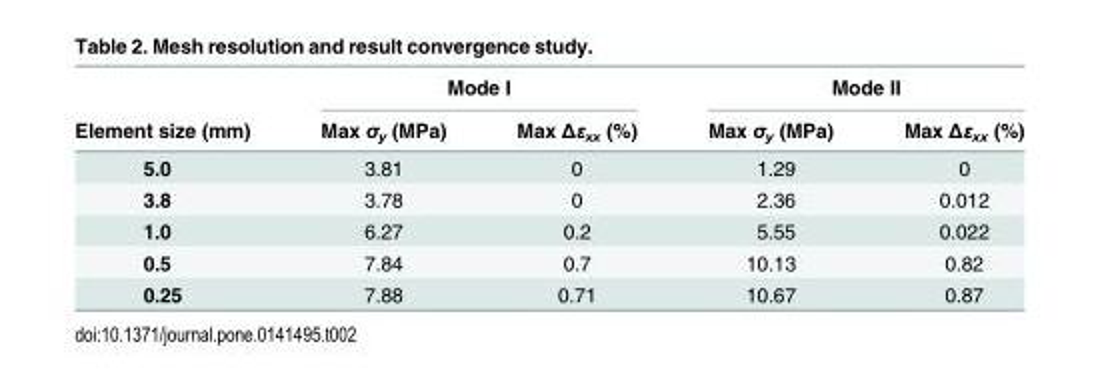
<table><thead><tr><td rowspan="2">Element size (mm)</td><td colspan="2">Mode I</td><td colspan="2">Mode II</td></tr><tr><td>Max σ<sub>y</sub> (MPa)</td><td>Max Δεxx (%)</td><td>Max σ<sub>y</sub> (MPa)</td><td>Max Δεxx (%)</td></tr></thead><tbody><tr><td>5.0</td><td>3.81</td><td>0</td><td>1.29</td><td>0</td></tr><tr><td>3.8</td><td>3.78</td><td>0</td><td>2.36</td><td>0.012</td></tr><tr><td>1.0</td><td>6.27</td><td>0.2</td><td>5.55</td><td>0.022</td></tr><tr><td>0.5</td><td>7.84</td><td>0.7</td><td>10.13</td><td>0.82</td></tr><tr><td>0.25</td><td>7.88</td><td>0.71</td><td>10.67</td><td>0.87</td></tr></tbody></table>